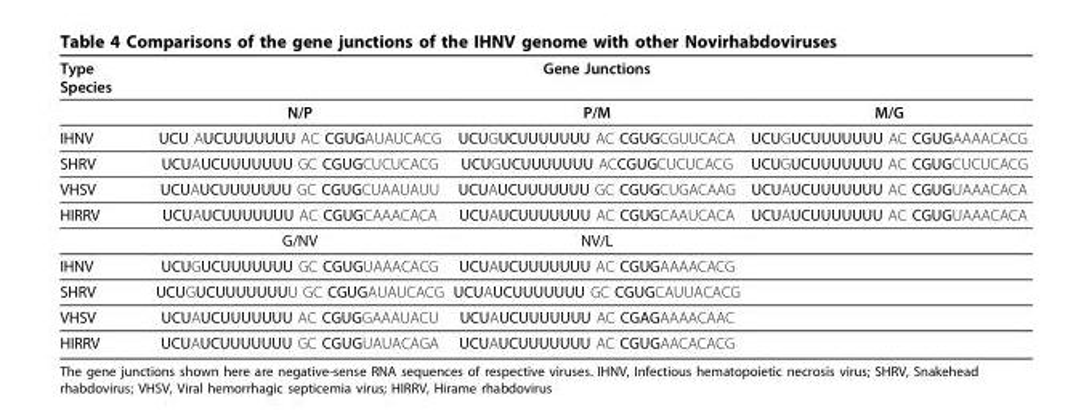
<table><thead><tr><td>Type Species</td><td></td><td>Gene Junctions</td><td></td></tr></thead><tbody><tr><td></td><td>N/P</td><td>P/M</td><td>M/G</td></tr><tr><td>IHNV</td><td>UCU AUCUUUUUUU AC CGUGAUAUCACG</td><td>UCUGUCUUUUUUU AC CGUGCGUUCACA</td><td>UCUGUCUUUUUUU AC CGUGAAAACACG</td></tr><tr><td>SHRV</td><td>UCUAUCUUUUUUU GC CGUGCUCUCACG</td><td>UCUGUCUUUUUUU ACCGUGCUCUCACG</td><td>UCUGUCUUUUUUU AC CGUGCUCUCACG</td></tr><tr><td>VHSV</td><td>UCUAUCUUUUUUU GC CGUGCUAAUAUU</td><td>UCUAUCUUUUUUU GC CGUGCUGACAAG</td><td>UCUAUCUUUUUUU AC CGUGUAAACACA</td></tr><tr><td rowspan="2">HIRRV</td><td>UCUAUCUUUUUUU AC CGUGCAAACACA</td><td>UCUAUCUUUUUUU AC CGUGCAAUCACA</td><td>UCUAUCUUUUUUU AC CGUGUAAACACA</td></tr><tr><td>G/NV</td><td>NV/L</td><td></td></tr><tr><td>IHNV</td><td>UCUGUCUUUUUUU GC CGUGUAAACACG</td><td>UCUAUCUUUUUUU AC CGUGAAAACACG</td><td></td></tr><tr><td>SHRV</td><td>UCUGUCUUUUUUUU GC CGUGAUAUCACG</td><td>UCUAUCUUUUUUU GC CGUGCAUUACACG</td><td></td></tr><tr><td>VHSV</td><td>UCUAUCUUUUUUU AC CGUGGAAAUACU</td><td>UCUAUCUUUUUUU AC CGAGAAAACAAC</td><td></td></tr><tr><td>HIRRV</td><td>UCUAUCUUUUUUU GC CGUGUAUACAGA</td><td>UCUAUCUUUUUUU AC CGUGAACACACG</td><td></td></tr></tbody></table>